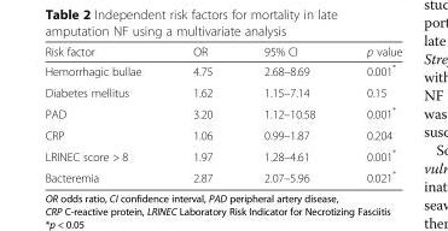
<table><thead><tr><td>Risk factor</td><td>OR</td><td>95% CI</td><td>p value</td></tr></thead><tbody><tr><td>Hemorrhagic bullae</td><td>4.75</td><td>2.68–8.69</td><td>0.001*</td></tr><tr><td>Diabetes mellitus</td><td>1.62</td><td>1.15–7.14</td><td>0.15</td></tr><tr><td>PAD</td><td>3.20</td><td>1.12–10.58</td><td>0.001*</td></tr><tr><td>CRP</td><td>1.06</td><td>0.99–1.87</td><td>0.204</td></tr><tr><td>LRINEC score &gt; 8</td><td>1.97</td><td>1.28–4.61</td><td>0.001*</td></tr><tr><td>Bacteremia</td><td>2.87</td><td>2.07–5.96</td><td>0.021*</td></tr></tbody></table>